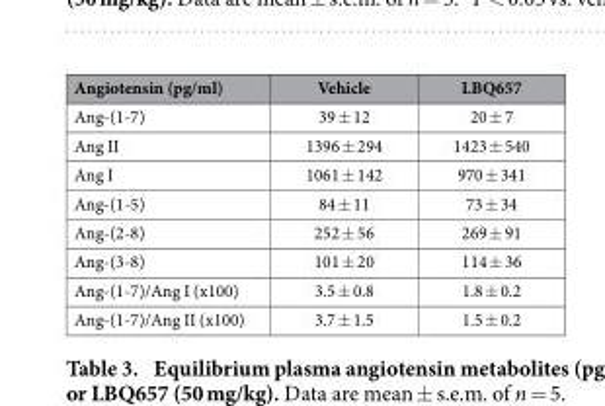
<table><thead><tr><td>Angiotensin (pg/ml)</td><td>Vehicle</td><td>LBQ657</td></tr></thead><tbody><tr><td>Ang-(1-7)</td><td>39 ± 12</td><td>20 ± 7</td></tr><tr><td>Ang II</td><td>1396 ± 294</td><td>1423 ± 540</td></tr><tr><td>Ang I</td><td>1061 ± 142</td><td>970 ± 341</td></tr><tr><td>Ang-(1-5)</td><td>84 ± 11</td><td>73 ± 34</td></tr><tr><td>Ang-(2-8)</td><td>252 ± 56</td><td>269 ± 91</td></tr><tr><td>Ang-(3-8)</td><td>101 ± 20</td><td>114 ± 36</td></tr><tr><td>Ang-(1-7)/Ang I (x100)</td><td>3.5 ± 0.8</td><td>1.8 ± 0.2</td></tr><tr><td>Ang-(1-7)/Ang II (x100)</td><td>3.7 ± 1.5</td><td>1.5 ± 0.2</td></tr></tbody></table>